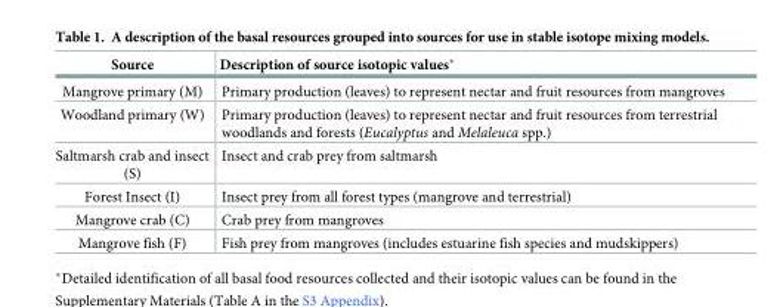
<table><thead><tr><td>Source</td><td>Description of source isotopic values*</td></tr></thead><tbody><tr><td>Mangrove primary (M)</td><td>Primary production (leaves) to represent nectar and fruit resources from mangroves</td></tr><tr><td>Woodland primary (W)</td><td>Primary production (leaves) to represent nectar and fruit resources from terrestrial woodlands and forests (Eucalyptus and Melaleuca spp.)</td></tr><tr><td>Saltmarsh crab and insect (S)</td><td>Insect and crab prey from saltmarsh</td></tr><tr><td>Forest Insect (I)</td><td>Insect prey from all forest types (mangrove and terrestrial)</td></tr><tr><td>Mangrove crab (C)</td><td>Crab prey from mangroves</td></tr><tr><td>Mangrove fish (F)</td><td>Fish prey from mangroves (includes estuarine fish species and mudskippers)</td></tr></tbody></table>